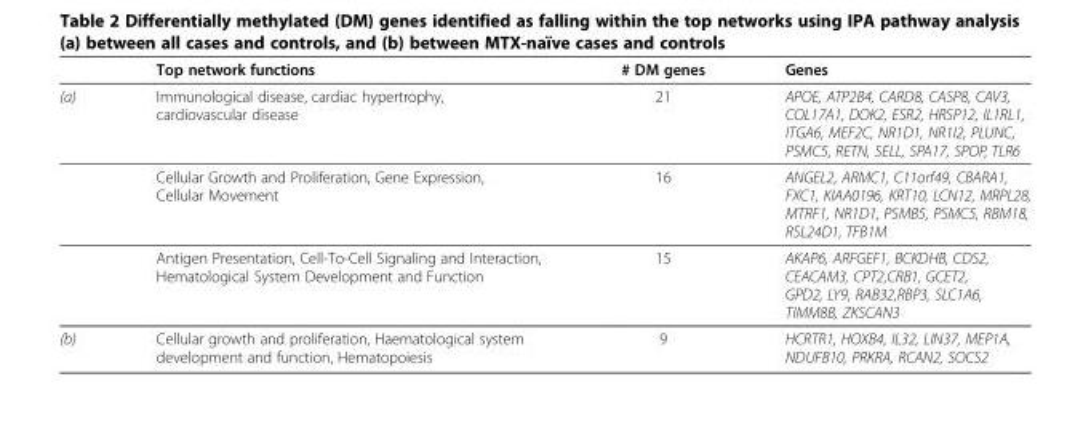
<table><thead><tr><td></td><td>Top network functions</td><td># DM genes</td><td>Genes</td></tr></thead><tbody><tr><td rowspan="3">(a)</td><td>Immunological disease, cardiac hypertrophy, cardiovascular disease</td><td>21</td><td>APOE, ATP2B4, CARD8, CASP8, CAV3, COL17A1, DOK2, ESR2, HRSP12, IL1RL1, ITGA6, MEF2C, NR1D1, NR1I2, PLUNC, PSMC5, RETN, SELL, SPA17, SPOP, TLR6</td></tr><tr><td>Cellular Growth and Proliferation, Gene Expression, Cellular Movement</td><td>16</td><td>ANGEL2, ARMC1, C11orf49, CBARA1, FXC1, KIAA0196, KRT10, LCN12, MRPL28, MTRF1, NR1D1, PSMB5, PSMC5, RBM18, RSL24D1, TFB1M</td></tr><tr><td>Antigen Presentation, Cell-To-Cell Signaling and Interaction, Hematological System Development and Function</td><td>15</td><td>AKAP6, ARFGEF1, BCKDHB, CDS2, CEACAM3, CPT2,CRB1, GCET2, GPD2, LY9, RAB32,RBP3, SLC1A6, TIMM8B, ZKSCAN3</td></tr><tr><td>(b)</td><td>Cellular growth and proliferation, Haematological system development and function, Hematopoiesis</td><td>9</td><td>HCRTR1, HOXB4, IL32, LIN37, MEP1A, NDUFB10, PRKRA, RCAN2, SOCS2</td></tr></tbody></table>